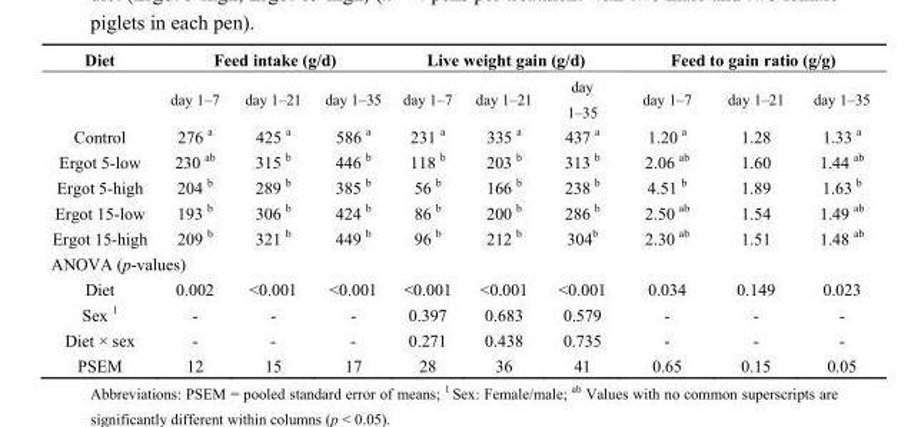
<table><thead><tr><td rowspan="2">Diet</td><td colspan="3">Feed intake (g/d)</td><td colspan="3">Live weight gain (g/d)</td><td colspan="3">Feed to gain ratio (g/g)</td></tr><tr><td>day 1–7</td><td>day 1–21</td><td>day 1–35</td><td>day 1–7</td><td>day 1–21</td><td>day 1–35</td><td>day 1–7</td><td>day 1–21</td><td>day 1–35</td></tr></thead><tbody><tr><td>Control</td><td>276 <sup>a</sup></td><td>425 <sup>a</sup></td><td>586 <sup>a</sup></td><td>231 <sup>a</sup></td><td>335 <sup>a</sup></td><td>437 <sup>a</sup></td><td>1.20 <sup>a</sup></td><td>1.28</td><td>1.33 <sup>a</sup></td></tr><tr><td>Ergot 5-low</td><td>230 <sup>ab</sup></td><td>315 <sup>b</sup></td><td>446 <sup>b</sup></td><td>118 <sup>b</sup></td><td>203 <sup>b</sup></td><td>313 <sup>b</sup></td><td>2.06 <sup>ab</sup></td><td>1.60</td><td>1.44 <sup>ab</sup></td></tr><tr><td>Ergot 5-high</td><td>204 <sup>b</sup></td><td>289 <sup>b</sup></td><td>385 <sup>b</sup></td><td>56 <sup>b</sup></td><td>166 <sup>b</sup></td><td>238 <sup>b</sup></td><td>4.51 <sup>b</sup></td><td>1.89</td><td>1.63 <sup>b</sup></td></tr><tr><td>Ergot 15-low</td><td>193 <sup>b</sup></td><td>306 <sup>b</sup></td><td>424 <sup>b</sup></td><td>86 <sup>b</sup></td><td>200 <sup>b</sup></td><td>286 <sup>b</sup></td><td>2.50 <sup>ab</sup></td><td>1.54</td><td>1.49 <sup>ab</sup></td></tr><tr><td>Ergot 15-high</td><td>209 <sup>b</sup></td><td>321 <sup>b</sup></td><td>449 <sup>b</sup></td><td>96 <sup>b</sup></td><td>212 <sup>b</sup></td><td>304<sup>b</sup></td><td>2.30 <sup>ab</sup></td><td>1.51</td><td>1.48 <sup>ab</sup></td></tr><tr><td colspan="10">ANOVA (p-values)</td></tr><tr><td>Diet</td><td>0.002</td><td>&lt;0.001</td><td>&lt;0.001</td><td>&lt;0.001</td><td>&lt;0.001</td><td>&lt;0.001</td><td>0.034</td><td>0.149</td><td>0.023</td></tr><tr><td>Sex <sup>1</sup></td><td>-</td><td>-</td><td>-</td><td>0.397</td><td>0.683</td><td>0.579</td><td>-</td><td>-</td><td>-</td></tr><tr><td>Diet × sex</td><td>-</td><td>-</td><td>-</td><td>0.271</td><td>0.438</td><td>0.735</td><td>-</td><td>-</td><td>-</td></tr><tr><td>PSEM</td><td>12</td><td>15</td><td>17</td><td>28</td><td>36</td><td>41</td><td>0.65</td><td>0.15</td><td>0.05</td></tr></tbody></table>